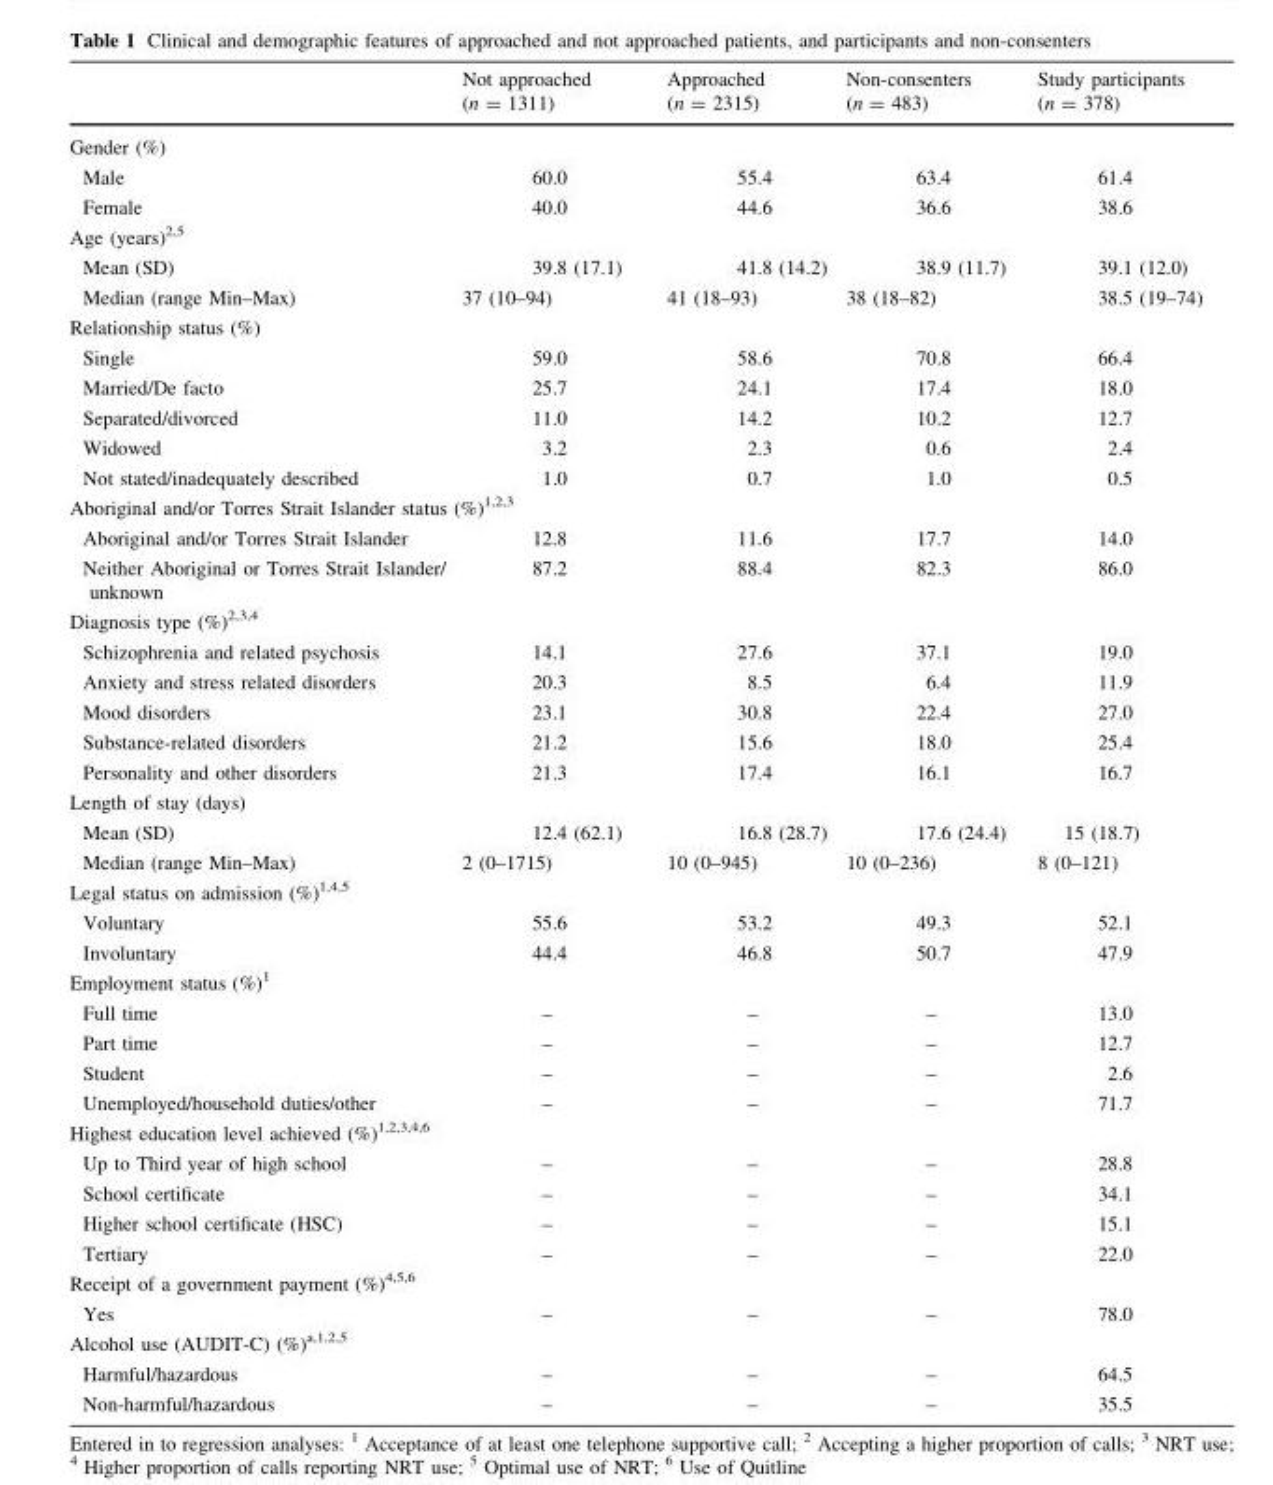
<table><thead><tr><td></td><td>Not approached (n = 1311)</td><td>Approached (n = 2315)</td><td>Non-consenters (n = 483)</td><td>Study participants (n = 378)</td></tr></thead><tbody><tr><td colspan="5">Gender (%)</td></tr><tr><td>Male</td><td>60.0</td><td>55.4</td><td>63.4</td><td>61.4</td></tr><tr><td>Female</td><td>40.0</td><td>44.6</td><td>36.6</td><td>38.6</td></tr><tr><td colspan="5">Age (years)<sup>2,5</sup></td></tr><tr><td>Mean (SD)</td><td>39.8 (17.1)</td><td>41.8 (14.2)</td><td>38.9 (11.7)</td><td>39.1 (12.0)</td></tr><tr><td>Median (range Min–Max)</td><td>37 (10–94)</td><td>41 (18–93)</td><td>38 (18–82)</td><td>38.5 (19–74)</td></tr><tr><td colspan="5">Relationship status (%)</td></tr><tr><td>Single</td><td>59.0</td><td>58.6</td><td>70.8</td><td>66.4</td></tr><tr><td>Married/De facto</td><td>25.7</td><td>24.1</td><td>17.4</td><td>18.0</td></tr><tr><td>Separated/divorced</td><td>11.0</td><td>14.2</td><td>10.2</td><td>12.7</td></tr><tr><td>Widowed</td><td>3.2</td><td>2.3</td><td>0.6</td><td>2.4</td></tr><tr><td>Not stated/inadequately described</td><td>1.0</td><td>0.7</td><td>1.0</td><td>0.5</td></tr><tr><td colspan="5">Aboriginal and/or Torres Strait Islander status (%)<sup>1,2,3</sup></td></tr><tr><td>Aboriginal and/or Torres Strait Islander</td><td>12.8</td><td>11.6</td><td>17.7</td><td>14.0</td></tr><tr><td>Neither Aboriginal or Torres Strait Islander/ unknown</td><td>87.2</td><td>88.4</td><td>82.3</td><td>86.0</td></tr><tr><td colspan="5">Diagnosis type (%)<sup>2,3,4</sup></td></tr><tr><td>Schizophrenia and related psychosis</td><td>14.1</td><td>27.6</td><td>37.1</td><td>19.0</td></tr><tr><td>Anxiety and stress related disorders</td><td>20.3</td><td>8.5</td><td>6.4</td><td>11.9</td></tr><tr><td>Mood disorders</td><td>23.1</td><td>30.8</td><td>22.4</td><td>27.0</td></tr><tr><td>Substance-related disorders</td><td>21.2</td><td>15.6</td><td>18.0</td><td>25.4</td></tr><tr><td>Personality and other disorders</td><td>21.3</td><td>17.4</td><td>16.1</td><td>16.7</td></tr><tr><td colspan="5">Length of stay (days)</td></tr><tr><td>Mean (SD)</td><td>12.4 (62.1)</td><td>16.8 (28.7)</td><td>17.6 (24.4)</td><td>15 (18.7)</td></tr><tr><td>Median (range Min–Max)</td><td>2 (0–1715)</td><td>10 (0–945)</td><td>10 (0–236)</td><td>8 (0–121)</td></tr><tr><td colspan="5">Legal status on admission (%)<sup>1,4,5</sup></td></tr><tr><td>Voluntary</td><td>55.6</td><td>53.2</td><td>49.3</td><td>52.1</td></tr><tr><td>Involuntary</td><td>44.4</td><td>46.8</td><td>50.7</td><td>47.9</td></tr><tr><td colspan="5">Employment status (%)<sup>1</sup></td></tr><tr><td>Full time</td><td>–</td><td>–</td><td>–</td><td>13.0</td></tr><tr><td>Part time</td><td>–</td><td>–</td><td>–</td><td>12.7</td></tr><tr><td>Student</td><td>–</td><td>–</td><td>–</td><td>2.6</td></tr><tr><td>Unemployed/household duties/other</td><td>–</td><td>–</td><td>–</td><td>71.7</td></tr><tr><td colspan="5">Highest education level achieved (%)<sup>1,2,3,4,6</sup></td></tr><tr><td>Up to Third year of high school</td><td>–</td><td>–</td><td>–</td><td>28.8</td></tr><tr><td>School certificate</td><td>–</td><td>–</td><td>–</td><td>34.1</td></tr><tr><td>Higher school certificate (HSC)</td><td>–</td><td>–</td><td>–</td><td>15.1</td></tr><tr><td>Tertiary</td><td>–</td><td>–</td><td>–</td><td>22.0</td></tr><tr><td colspan="5">Receipt of a government payment (%)<sup>4,5,6</sup></td></tr><tr><td>Yes</td><td>–</td><td>–</td><td>–</td><td>78.0</td></tr><tr><td colspan="5">Alcohol use (AUDIT-C) (%)<sup>a,1,2,5</sup></td></tr><tr><td>Harmful/hazardous</td><td>–</td><td>–</td><td>–</td><td>64.5</td></tr><tr><td>Non-harmful/hazardous</td><td>–</td><td>–</td><td>–</td><td>35.5</td></tr></tbody></table>